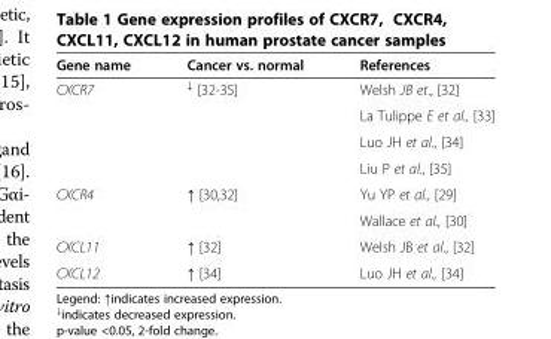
<table><thead><tr><td>Gene name</td><td>Cancer vs. normal</td><td>References</td></tr></thead><tbody><tr><td rowspan="4">CXCR7</td><td rowspan="4"><sup>↓</sup> [32-35]</td><td>Welsh JB et., [32]</td></tr><tr><td>La Tulippe E et al., [33]</td></tr><tr><td>Luo JH et al., [34]</td></tr><tr><td>Liu P et al., [35]</td></tr><tr><td rowspan="2">CXCR4</td><td rowspan="2">↑ [30,32]</td><td>Yu YP et al., [29]</td></tr><tr><td>Wallace et al., [30]</td></tr><tr><td>CXCL11</td><td>↑ [32]</td><td>Welsh JB et al., [32]</td></tr><tr><td>CXCL12</td><td>↑ [34]</td><td>Luo JH et al., [34]</td></tr></tbody></table>